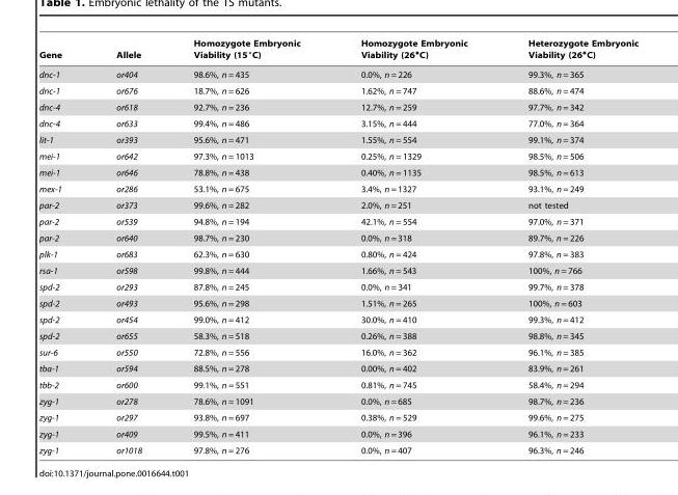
<table><thead><tr><td>Gene</td><td>Allele</td><td>Homozygote Embryonic Viability (15°C)</td><td>Homozygote Embryonic Viability (26°C)</td><td>Heterozygote Embryonic Viability (26°C)</td></tr></thead><tbody><tr><td>dnc-1</td><td>or404</td><td>98.6%, n = 435</td><td>0.0%, n = 226</td><td>99.3%, n = 365</td></tr><tr><td>dnc-1</td><td>or676</td><td>18.7%, n = 626</td><td>1.62%, n = 747</td><td>88.6%, n = 474</td></tr><tr><td>dnc-4</td><td>or618</td><td>92.7%, n = 236</td><td>12.7%, n = 259</td><td>97.7%, n = 342</td></tr><tr><td>dnc-4</td><td>or633</td><td>99.4%, n = 486</td><td>3.15%, n = 444</td><td>77.0%, n = 364</td></tr><tr><td>lit-1</td><td>or393</td><td>95.6%, n = 471</td><td>1.55%, n = 554</td><td>99.1%, n = 374</td></tr><tr><td>mei-1</td><td>or642</td><td>97.3%, n = 1013</td><td>0.25%, n = 1329</td><td>98.5%, n = 506</td></tr><tr><td>mei-1</td><td>or646</td><td>78.8%, n = 438</td><td>0.40%, n = 1135</td><td>98.5%, n = 613</td></tr><tr><td>mex-1</td><td>or286</td><td>53.1%, n = 675</td><td>3.4%, n = 1327</td><td>93.1%, n = 249</td></tr><tr><td>par-2</td><td>or373</td><td>99.6%, n = 282</td><td>2.0%, n = 251</td><td>not tested</td></tr><tr><td>par-2</td><td>or539</td><td>94.8%, n = 194</td><td>42.1%, n = 554</td><td>97.0%, n = 371</td></tr><tr><td>par-2</td><td>or640</td><td>98.7%, n = 230</td><td>0.0%, n = 318</td><td>89.7%, n = 226</td></tr><tr><td>plk-1</td><td>or683</td><td>62.3%, n = 630</td><td>0.80%, n = 424</td><td>97.8%, n = 383</td></tr><tr><td>rsa-1</td><td>or598</td><td>99.8%, n = 444</td><td>1.66%, n = 543</td><td>100%, n = 766</td></tr><tr><td>spd-2</td><td>or293</td><td>87.8%, n = 245</td><td>0.0%, n = 341</td><td>99.7%, n = 378</td></tr><tr><td>spd-2</td><td>or493</td><td>95.6%, n = 298</td><td>1.51%, n = 265</td><td>100%, n = 603</td></tr><tr><td>spd-2</td><td>or454</td><td>99.0%, n = 412</td><td>30.0%, n = 410</td><td>99.3%, n = 412</td></tr><tr><td>spd-2</td><td>or655</td><td>58.3%, n = 518</td><td>0.26%, n = 388</td><td>98.8%, n = 345</td></tr><tr><td>sur-6</td><td>or550</td><td>72.8%, n = 556</td><td>16.0%, n = 362</td><td>96.1%, n = 385</td></tr><tr><td>tba-1</td><td>or594</td><td>88.5%, n = 278</td><td>0.00%, n = 402</td><td>83.9%, n = 261</td></tr><tr><td>tbb-2</td><td>or600</td><td>99.1%, n = 551</td><td>0.81%, n = 745</td><td>58.4%, n = 294</td></tr><tr><td>zyg-1</td><td>or278</td><td>78.6%, n = 1091</td><td>0.0%, n = 685</td><td>98.7%, n = 236</td></tr><tr><td>zyg-1</td><td>or297</td><td>93.8%, n = 697</td><td>0.38%, n = 529</td><td>99.6%, n = 275</td></tr><tr><td>zyg-1</td><td>or409</td><td>99.5%, n = 411</td><td>0.0%, n = 396</td><td>96.1%, n = 233</td></tr><tr><td>zyg-1</td><td>or1018</td><td>97.8%, n = 276</td><td>0.0%, n = 407</td><td>96.3%, n = 246</td></tr></tbody></table>